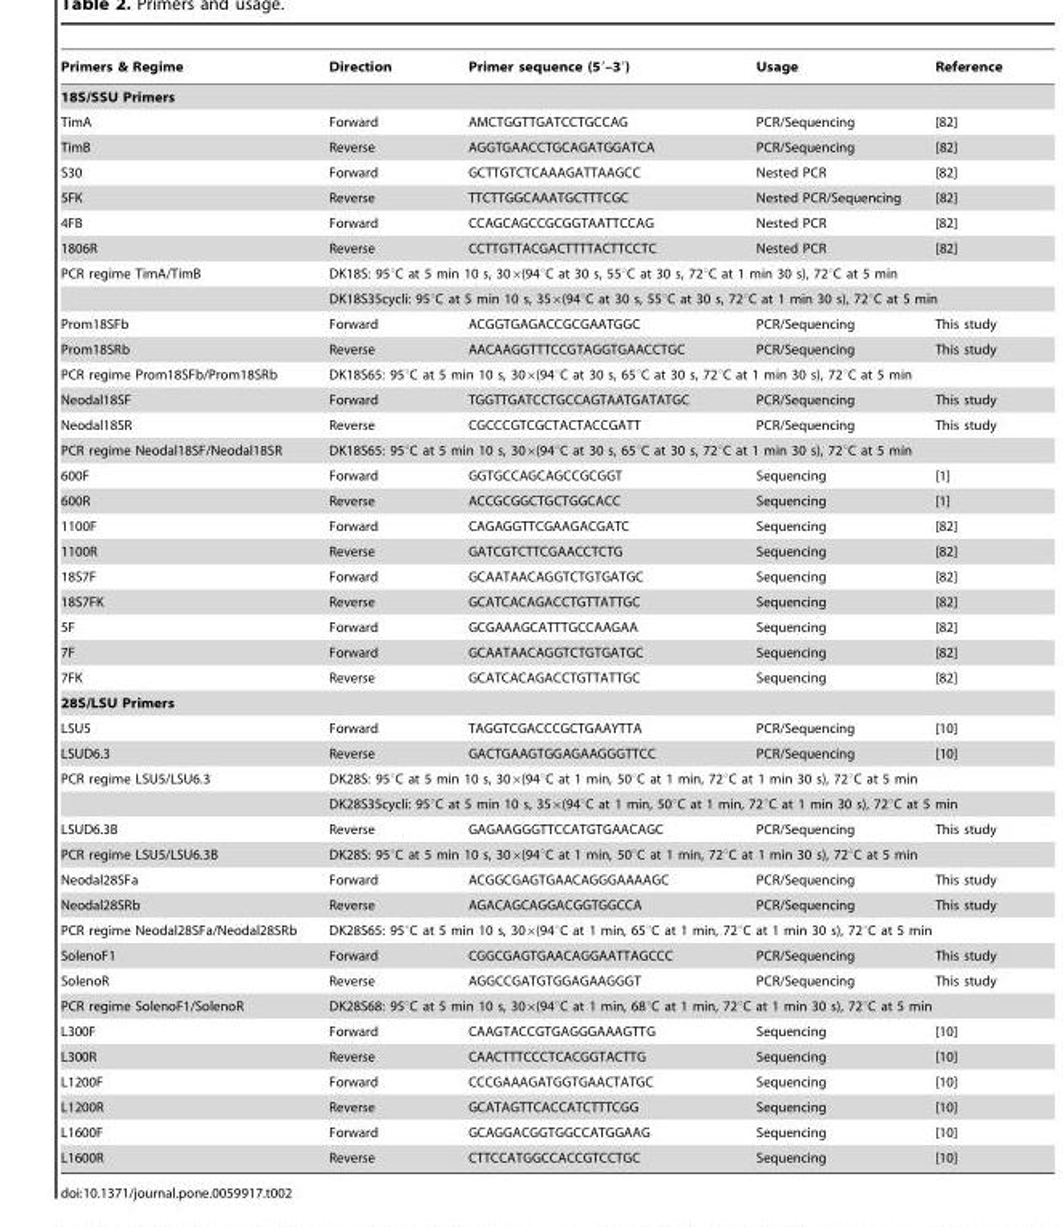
<table><thead><tr><td>Primers &amp; Regime</td><td>Direction</td><td>Primer sequence (5′–3′)</td><td>Usage</td><td>Reference</td></tr></thead><tbody><tr><td colspan="5">18S/SSU Primers</td></tr><tr><td>TimA</td><td>Forward</td><td>AMCTGGTTGATCCTGCCAG</td><td>PCR/Sequencing</td><td>[82]</td></tr><tr><td>TimB</td><td>Reverse</td><td>AGGTGAACCTGCAGATGGATCA</td><td>PCR/Sequencing</td><td>[82]</td></tr><tr><td>S30</td><td>Forward</td><td>GCTTGTCTCAAAGATTAAGCC</td><td>Nested PCR</td><td>[82]</td></tr><tr><td>5FK</td><td>Reverse</td><td>TTCTTGGCAAATGCTTTCGC</td><td>Nested PCR/Sequencing</td><td>[82]</td></tr><tr><td>4FB</td><td>Forward</td><td>CCAGCAGCCGCGGTAATTCCAG</td><td>Nested PCR</td><td>[82]</td></tr><tr><td>1806R</td><td>Reverse</td><td>CCTTGTTACGACTTTTACTTCCTC</td><td>Nested PCR</td><td>[82]</td></tr><tr><td rowspan="2">PCR regime TimA/TimB</td><td colspan="4">DK18S: 95°C at 5 min 10 s, 30×(94°C at 30 s, 55°C at 30 s, 72°C at 1 min 30 s), 72°C at 5 min</td></tr><tr><td colspan="4">DK18S35cycli: 95°C at 5 min 10 s, 35×(94°C at 30 s, 55°C at 30 s, 72°C at 1 min 30 s), 72°C at 5 min</td></tr><tr><td>Prom18SFb</td><td>Forward</td><td>ACGGTGAGACCGCGAATGGC</td><td>PCR/Sequencing</td><td>This study</td></tr><tr><td>Prom18SRb</td><td>Reverse</td><td>AACAAGGTTTCCGTAGGTGAACCTGC</td><td>PCR/Sequencing</td><td>This study</td></tr><tr><td>PCR regime Prom18SFb/Prom18SRb</td><td colspan="4">DK18S65: 95°C at 5 min 10 s, 30×(94°C at 30 s, 65°C at 30 s, 72°C at 1 min 30 s), 72°C at 5 min</td></tr><tr><td>Neodal18SF</td><td>Forward</td><td>TGGTTGATCCTGCCAGTAATGATATGC</td><td>PCR/Sequencing</td><td>This study</td></tr><tr><td>Neodal18SR</td><td>Reverse</td><td>CGCCCGTCGCTACTACCGATT</td><td>PCR/Sequencing</td><td>This study</td></tr><tr><td>PCR regime Neodal18SF/Neodal18SR</td><td colspan="4">DK18S65: 95°C at 5 min 10 s, 30×(94°C at 30 s, 65°C at 30 s, 72°C at 1 min 30 s), 72°C at 5 min</td></tr><tr><td>600F</td><td>Forward</td><td>GGTGCCAGCAGCCGCGGT</td><td>Sequencing</td><td>[1]</td></tr><tr><td>600R</td><td>Reverse</td><td>ACCGCGGCTGCTGGCACC</td><td>Sequencing</td><td>[1]</td></tr><tr><td>1100F</td><td>Forward</td><td>CAGAGGTTCGAAGACGATC</td><td>Sequencing</td><td>[82]</td></tr><tr><td>1100R</td><td>Reverse</td><td>GATCGTCTTCGAACCTCTG</td><td>Sequencing</td><td>[82]</td></tr><tr><td>18S7F</td><td>Forward</td><td>GCAATAACAGGTCTGTGATGC</td><td>Sequencing</td><td>[82]</td></tr><tr><td>18S7FK</td><td>Reverse</td><td>GCATCACAGACCTGTTATTGC</td><td>Sequencing</td><td>[82]</td></tr><tr><td>5F</td><td>Forward</td><td>GCGAAAGCATTTGCCAAGAA</td><td>Sequencing</td><td>[82]</td></tr><tr><td>7F</td><td>Forward</td><td>GCAATAACAGGTCTGTGATGC</td><td>Sequencing</td><td>[82]</td></tr><tr><td>7FK</td><td>Reverse</td><td>GCATCACAGACCTGTTATTGC</td><td>Sequencing</td><td>[82]</td></tr><tr><td colspan="5">28S/LSU Primers</td></tr><tr><td>LSU5</td><td>Forward</td><td>TAGGTCGACCCGCTGAAYTTA</td><td>PCR/Sequencing</td><td>[10]</td></tr><tr><td>LSUD6.3</td><td>Reverse</td><td>GACTGAAGTGGAGAAGGGTTCC</td><td>PCR/Sequencing</td><td>[10]</td></tr><tr><td rowspan="2">PCR regime LSU5/LSU6.3</td><td colspan="4">DK28S: 95°C at 5 min 10 s, 30×(94°C at 1 min, 50°C at 1 min, 72°C at 1 min 30 s), 72°C at 5 min</td></tr><tr><td colspan="4">DK28S35cycli: 95°C at 5 min 10 s, 35×(94°C at 1 min, 50°C at 1 min, 72°C at 1 min 30 s), 72°C at 5 min</td></tr><tr><td>LSUD6.3B</td><td>Reverse</td><td>GAGAAGGGTTCCATGTGAACAGC</td><td>PCR/Sequencing</td><td>This study</td></tr><tr><td>PCR regime LSU5/LSU6.3B</td><td colspan="4">DK28S: 95°C at 5 min 10 s, 30×(94°C at 1 min, 50°C at 1 min, 72°C at 1 min 30 s), 72°C at 5 min</td></tr><tr><td>Neodal28SFa</td><td>Forward</td><td>ACGGCGAGTGAACAGGGAAAAGC</td><td>PCR/Sequencing</td><td>This study</td></tr><tr><td>Neodal28SRb</td><td>Reverse</td><td>AGACAGCAGGACGGTGGCCA</td><td>PCR/Sequencing</td><td>This study</td></tr><tr><td>PCR regime Neodal28SFa/Neodal28SRb</td><td colspan="4">DK28S65: 95°C at 5 min 10 s, 30×(94°C at 1 min, 65°C at 1 min, 72°C at 1 min 30 s), 72°C at 5 min</td></tr><tr><td>SolenoF1</td><td>Forward</td><td>CGGCGAGTGAACAGGAATTAGCCC</td><td>PCR/Sequencing</td><td>This study</td></tr><tr><td>SolenoR</td><td>Reverse</td><td>AGGCCGATGTGGAGAAGGGT</td><td>PCR/Sequencing</td><td>This study</td></tr><tr><td>PCR regime SolenoF1/SolenoR</td><td colspan="4">DK28S68: 95°C at 5 min 10 s, 30×(94°C at 1 min, 68°C at 1 min, 72°C at 1 min 30 s), 72°C at 5 min</td></tr><tr><td>L300F</td><td>Forward</td><td>CAAGTACCGTGAGGGAAAGTTG</td><td>Sequencing</td><td>[10]</td></tr><tr><td>L300R</td><td>Reverse</td><td>CAACTTTCCCTCACGGTACTTG</td><td>Sequencing</td><td>[10]</td></tr><tr><td>L1200F</td><td>Forward</td><td>CCCGAAAGATGGTGAACTATGC</td><td>Sequencing</td><td>[10]</td></tr><tr><td>L1200R</td><td>Reverse</td><td>GCATAGTTCACCATCTTTCGG</td><td>Sequencing</td><td>[10]</td></tr><tr><td>L1600F</td><td>Forward</td><td>GCAGGACGGTGGCCATGGAAG</td><td>Sequencing</td><td>[10]</td></tr><tr><td>L1600R</td><td>Reverse</td><td>CTTCCATGGCCACCGTCCTGC</td><td>Sequencing</td><td>[10]</td></tr></tbody></table>